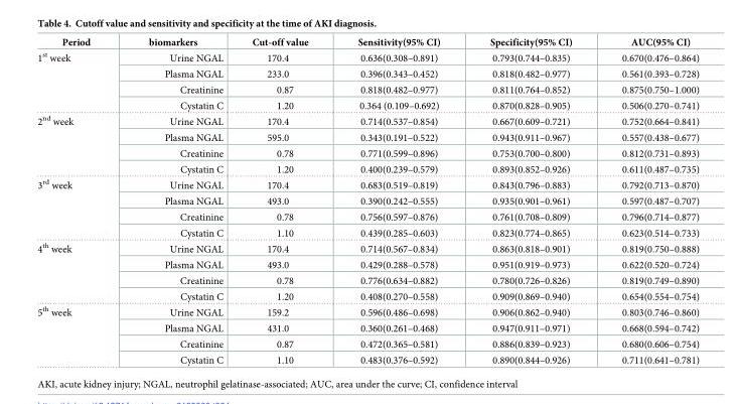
<table><thead><tr><td>Period</td><td>biomarkers</td><td>Cut-off value</td><td>Sensitivity(95% CI)</td><td>Specificity(95% CI)</td><td>AUC(95% CI)</td></tr></thead><tbody><tr><td rowspan="4">1<sup>st</sup> week</td><td>Urine NGAL</td><td>170.4</td><td>0.636(0.308–0.891)</td><td>0.793(0.744–0.835)</td><td>0.670(0.476–0.864)</td></tr><tr><td>Plasma NGAL</td><td>233.0</td><td>0.396(0.343–0.452)</td><td>0.818(0.482–0.977)</td><td>0.561(0.393–0.728)</td></tr><tr><td>Creatinine</td><td>0.87</td><td>0.818(0.482–0.977)</td><td>0.811(0.764–0.852)</td><td>0.875(0.750–1.000)</td></tr><tr><td>Cystatin C</td><td>1.20</td><td>0.364 (0.109–0.692)</td><td>0.870(0.828–0.905)</td><td>0.506(0.270–0.741)</td></tr><tr><td rowspan="4">2<sup>nd</sup> week</td><td>Urine NGAL</td><td>170.4</td><td>0.714(0.537–0.854)</td><td>0.667(0.609–0.721)</td><td>0.752(0.664–0.841)</td></tr><tr><td>Plasma NGAL</td><td>595.0</td><td>0.343(0.191–0.522)</td><td>0.943(0.911–0.967)</td><td>0.557(0.438–0.677)</td></tr><tr><td>Creatinine</td><td>0.78</td><td>0.771(0.599–0.896)</td><td>0.753(0.700–0.800)</td><td>0.812(0.731–0.893)</td></tr><tr><td>Cystatin C</td><td>1.20</td><td>0.400(0.239–0.579)</td><td>0.893(0.852–0.926)</td><td>0.611(0.487–0.735)</td></tr><tr><td rowspan="4">3<sup>rd</sup> week</td><td>Urine NGAL</td><td>170.4</td><td>0.683(0.519–0.819)</td><td>0.843(0.796–0.883)</td><td>0.792(0.713–0.870)</td></tr><tr><td>Plasma NGAL</td><td>493.0</td><td>0.390(0.242–0.555)</td><td>0.935(0.901–0.961)</td><td>0.597(0.487–0.707)</td></tr><tr><td>Creatinine</td><td>0.78</td><td>0.756(0.597–0.876)</td><td>0.761(0.708–0.809)</td><td>0.796(0.714–0.877)</td></tr><tr><td>Cystatin C</td><td>1.10</td><td>0.439(0.285–0.603)</td><td>0.823(0.774–0.865)</td><td>0.623(0.514–0.733)</td></tr><tr><td rowspan="4">4<sup>th</sup> week</td><td>Urine NGAL</td><td>170.4</td><td>0.714(0.567–0.834)</td><td>0.863(0.818–0.901)</td><td>0.819(0.750–0.888)</td></tr><tr><td>Plasma NGAL</td><td>493.0</td><td>0.429(0.288–0.578)</td><td>0.951(0.919–0.973)</td><td>0.622(0.520–0.724)</td></tr><tr><td>Creatinine</td><td>0.78</td><td>0.776(0.634–0.882)</td><td>0.780(0.726–0.826)</td><td>0.819(0.749–0.890)</td></tr><tr><td>Cystatin C</td><td>1.20</td><td>0.408(0.270–0.558)</td><td>0.909(0.869–0.940)</td><td>0.654(0.554–0.754)</td></tr><tr><td rowspan="4">5<sup>th</sup> week</td><td>Urine NGAL</td><td>159.2</td><td>0.596(0.486–0.698)</td><td>0.906(0.862–0.940)</td><td>0.803(0.746–0.860)</td></tr><tr><td>Plasma NGAL</td><td>431.0</td><td>0.360(0.261–0.468)</td><td>0.947(0.911–0.971)</td><td>0.668(0.594–0.742)</td></tr><tr><td>Creatinine</td><td>0.87</td><td>0.472(0.365–0.581)</td><td>0.886(0.839–0.923)</td><td>0.680(0.606–0.754)</td></tr><tr><td>Cystatin C</td><td>1.10</td><td>0.483(0.376–0.592)</td><td>0.890(0.844–0.926)</td><td>0.711(0.641–0.781)</td></tr></tbody></table>